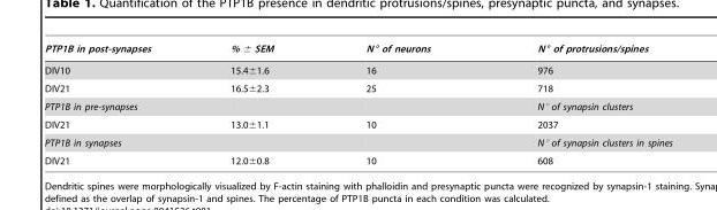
<table><thead><tr><td>PTP1B in post-synapses</td><td>% ± SEM</td><td>N° of neurons</td><td>N° of protrusions/spines</td></tr></thead><tbody><tr><td>DIV10</td><td>15.4±1.6</td><td>16</td><td>976</td></tr><tr><td>DIV21</td><td>16.5±2.3</td><td>25</td><td>718</td></tr><tr><td>PTP1B in pre-synapses</td><td></td><td></td><td>N° of synapsin clusters</td></tr><tr><td>DIV21</td><td>13.0±1.1</td><td>10</td><td>2037</td></tr><tr><td>PTP1B in synapses</td><td></td><td></td><td>N° of synapsin clusters in spines</td></tr><tr><td>DIV21</td><td>12.0±0.8</td><td>10</td><td>608</td></tr></tbody></table>